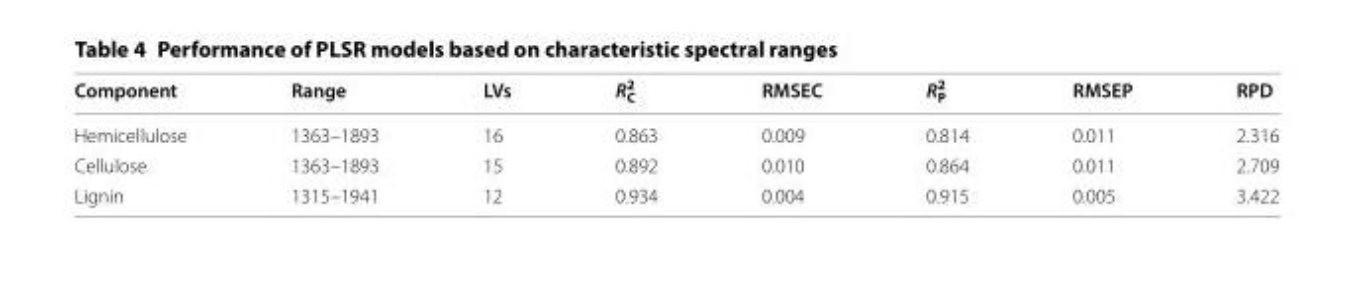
<table><thead><tr><td>Component</td><td>Range</td><td>LVs</td><td>R<sub>C</sub> <sup>2</sup></td><td>RMSEC</td><td>R<sub>P</sub> <sup>2</sup></td><td>RMSEP</td><td>RPD</td></tr></thead><tbody><tr><td>Hemicellulose</td><td>1363–1893</td><td>16</td><td>0.863</td><td>0.009</td><td>0.814</td><td>0.011</td><td>2.316</td></tr><tr><td>Cellulose</td><td>1363–1893</td><td>15</td><td>0.892</td><td>0.010</td><td>0.864</td><td>0.011</td><td>2.709</td></tr><tr><td>Lignin</td><td>1315–1941</td><td>12</td><td>0.934</td><td>0.004</td><td>0.915</td><td>0.005</td><td>3.422</td></tr></tbody></table>